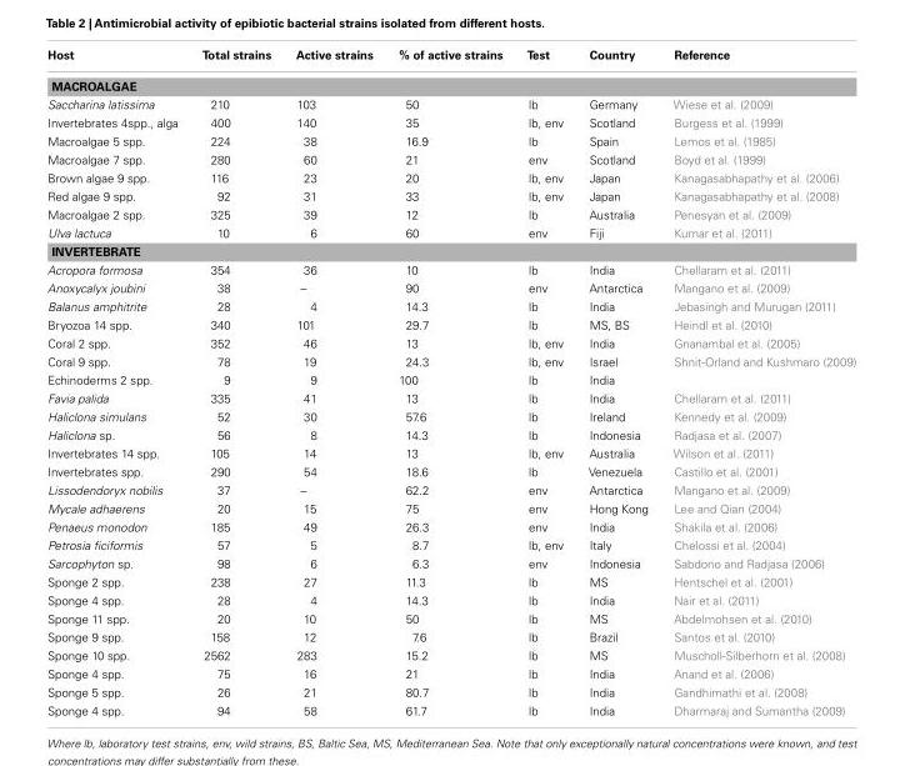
<table><thead><tr><td>Host</td><td>Total strains</td><td>Active strains</td><td>% of active strains</td><td>Test</td><td>Country</td><td>Reference</td></tr></thead><tbody><tr><td colspan="7">MACROALGAE</td></tr><tr><td>Saccharina latissima</td><td>210</td><td>103</td><td>50</td><td>lb</td><td>Germany</td><td>Wiese et al. (2009)</td></tr><tr><td>Invertebrates 4spp., alga</td><td>400</td><td>140</td><td>35</td><td>lb, env</td><td>Scotland</td><td>Burgess et al. (1999)</td></tr><tr><td>Macroalgae 5 spp.</td><td>224</td><td>38</td><td>16.9</td><td>lb</td><td>Spain</td><td>Lemos et al. (1985)</td></tr><tr><td>Macroalgae 7 spp.</td><td>280</td><td>60</td><td>21</td><td>env</td><td>Scotland</td><td>Boyd et al. (1999)</td></tr><tr><td>Brown algae 9 spp.</td><td>116</td><td>23</td><td>20</td><td>lb, env</td><td>Japan</td><td>Kanagasabhapathy et al. (2006)</td></tr><tr><td>Red algae 9 spp.</td><td>92</td><td>31</td><td>33</td><td>lb, env</td><td>Japan</td><td>Kanagasabhapathy et al. (2008)</td></tr><tr><td>Macroalgae 2 spp.</td><td>325</td><td>39</td><td>12</td><td>lb</td><td>Australia</td><td>Penesyan et al. (2009)</td></tr><tr><td>Ulva lactuca</td><td>10</td><td>6</td><td>60</td><td>env</td><td>Fiji</td><td>Kumar et al. (2011)</td></tr><tr><td colspan="7">INVERTEBRATE</td></tr><tr><td>Acropora formosa</td><td>354</td><td>36</td><td>10</td><td>lb</td><td>India</td><td>Chellaram et al. (2011)</td></tr><tr><td>Anoxycalyx joubini</td><td>38</td><td>–</td><td>90</td><td>env</td><td>Antarctica</td><td>Mangano et al. (2009)</td></tr><tr><td>Balanus amphitrite</td><td>28</td><td>4</td><td>14.3</td><td>lb</td><td>India</td><td>Jebasingh and Murugan (2011)</td></tr><tr><td>Bryozoa 14 spp.</td><td>340</td><td>101</td><td>29.7</td><td>lb</td><td>MS, BS</td><td>Heindl et al. (2010)</td></tr><tr><td>Coral 2 spp.</td><td>352</td><td>46</td><td>13</td><td>lb, env</td><td>India</td><td>Gnanambal et al. (2005)</td></tr><tr><td>Coral 9 spp.</td><td>78</td><td>19</td><td>24.3</td><td>lb, env</td><td>Israel</td><td>Shnit-Orland and Kushmaro (2009)</td></tr><tr><td>Echinoderms 2 spp.</td><td>9</td><td>9</td><td>100</td><td>lb</td><td>India</td><td></td></tr><tr><td>Favia palida</td><td>335</td><td>41</td><td>13</td><td>lb</td><td>India</td><td>Chellaram et al. (2011)</td></tr><tr><td>Haliclona simulans</td><td>52</td><td>30</td><td>57.6</td><td>lb</td><td>Ireland</td><td>Kennedy et al. (2009)</td></tr><tr><td>Haliclona sp.</td><td>56</td><td>8</td><td>14.3</td><td>lb</td><td>Indonesia</td><td>Radjasa et al. (2007)</td></tr><tr><td>Invertebrates 14 spp.</td><td>105</td><td>14</td><td>13</td><td>lb, env</td><td>Australia</td><td>Wilson et al. (2011)</td></tr><tr><td>Invertebrates spp.</td><td>290</td><td>54</td><td>18.6</td><td>lb</td><td>Venezuela</td><td>Castillo et al. (2001)</td></tr><tr><td>Lissodendoryx nobilis</td><td>37</td><td>–</td><td>62.2</td><td>env</td><td>Antarctica</td><td>Mangano et al. (2009)</td></tr><tr><td>Mycale adhaerens</td><td>20</td><td>15</td><td>75</td><td>env</td><td>Hong Kong</td><td>Lee and Qian (2004)</td></tr><tr><td>Penaeus monodon</td><td>185</td><td>49</td><td>26.3</td><td>env</td><td>India</td><td>Shakila et al. (2006)</td></tr><tr><td>Petrosia ficiformis</td><td>57</td><td>5</td><td>8.7</td><td>lb, env</td><td>Italy</td><td>Chelossi et al. (2004)</td></tr><tr><td>Sarcophyton sp.</td><td>98</td><td>6</td><td>6.3</td><td>env</td><td>Indonesia</td><td>Sabdono and Radjasa (2006)</td></tr><tr><td>Sponge 2 spp.</td><td>238</td><td>27</td><td>11.3</td><td>lb</td><td>MS</td><td>Hentschel et al. (2001)</td></tr><tr><td>Sponge 4 spp.</td><td>28</td><td>4</td><td>14.3</td><td>lb</td><td>India</td><td>Nair et al. (2011)</td></tr><tr><td>Sponge 11 spp.</td><td>20</td><td>10</td><td>50</td><td>lb</td><td>MS</td><td>Abdelmohsen et al. (2010)</td></tr><tr><td>Sponge 9 spp.</td><td>158</td><td>12</td><td>7.6</td><td>lb</td><td>Brazil</td><td>Santos et al. (2010)</td></tr><tr><td>Sponge 10 spp.</td><td>2562</td><td>283</td><td>15.2</td><td>lb</td><td>MS</td><td>Muscholl-Silberhorn et al. (2008)</td></tr><tr><td>Sponge 4 spp.</td><td>75</td><td>16</td><td>21</td><td>lb</td><td>India</td><td>Anand et al. (2006)</td></tr><tr><td>Sponge 5 spp.</td><td>26</td><td>21</td><td>80.7</td><td>lb</td><td>India</td><td>Gandhimathi et al. (2008)</td></tr><tr><td>Sponge 4 spp.</td><td>94</td><td>58</td><td>61.7</td><td>lb</td><td>India</td><td>Dharmaraj and Sumantha (2009)</td></tr></tbody></table>